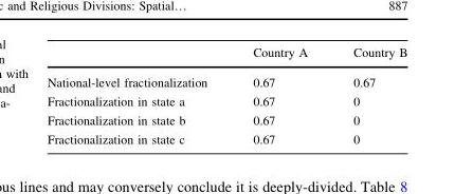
<table><thead><tr><td></td><td>Country A</td><td>Country B</td></tr></thead><tbody><tr><td>National-level fractionalization</td><td>0.67</td><td>0.67</td></tr><tr><td>Fractionalization in state a</td><td>0.67</td><td>0</td></tr><tr><td>Fractionalization in state b</td><td>0.67</td><td>0</td></tr><tr><td>Fractionalization in state c</td><td>0.67</td><td>0</td></tr></tbody></table>